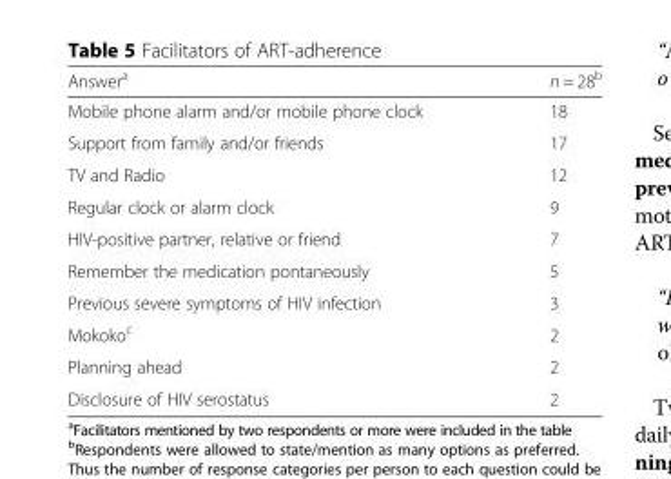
<table><thead><tr><td>Answer<sup>a</sup></td><td>n = 28<sup>b</sup></td></tr></thead><tbody><tr><td>Mobile phone alarm and/or mobile phone clock</td><td>18</td></tr><tr><td>Support from family and/or friends</td><td>17</td></tr><tr><td>TV and Radio</td><td>12</td></tr><tr><td>Regular clock or alarm clock</td><td>9</td></tr><tr><td>HIV-positive partner, relative or friend</td><td>7</td></tr><tr><td>Remember the medication pontaneously</td><td>5</td></tr><tr><td>Previous severe symptoms of HIV infection</td><td>3</td></tr><tr><td>Mokoko<sup>c</sup></td><td>2</td></tr><tr><td>Planning ahead</td><td>2</td></tr><tr><td>Disclosure of HIV serostatus</td><td>2</td></tr></tbody></table>